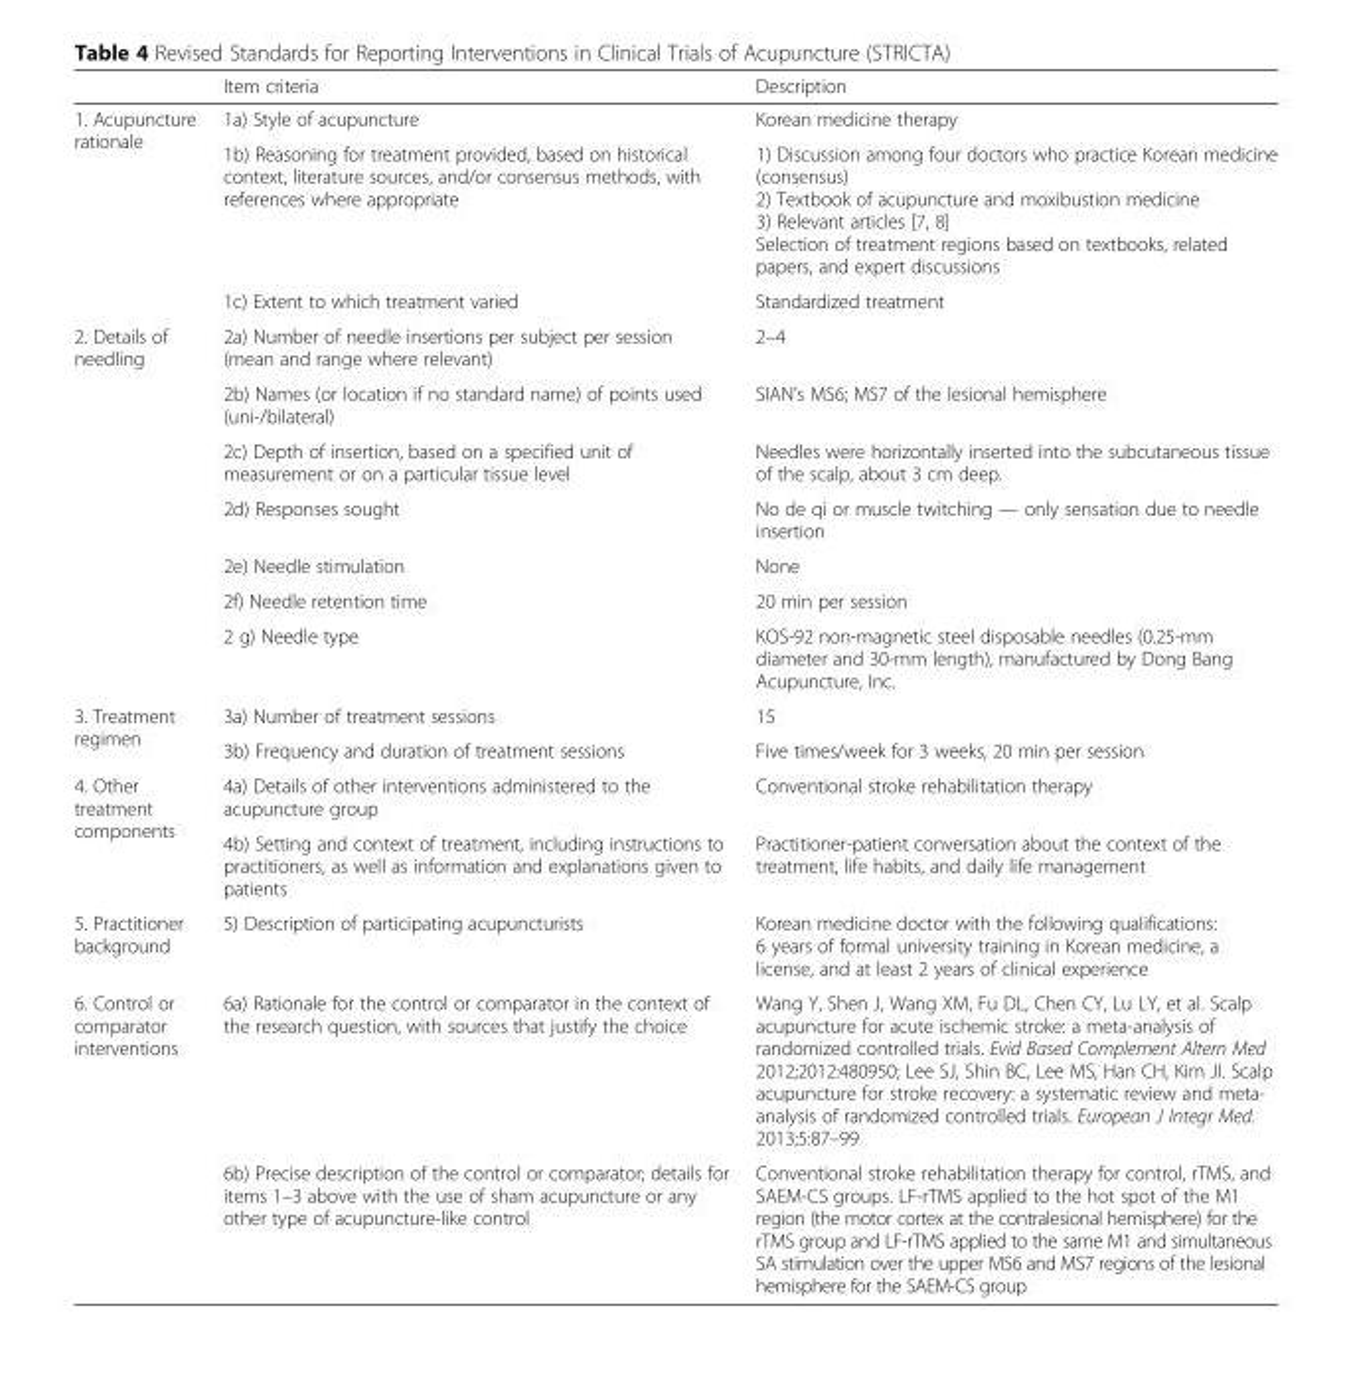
<table><thead><tr><td></td><td>Item criteria</td><td>Description</td></tr></thead><tbody><tr><td rowspan="3">1. Acupuncture rationale</td><td>1a) Style of acupuncture</td><td>Korean medicine therapy</td></tr><tr><td>1b) Reasoning for treatment provided, based on historical context, literature sources, and/or consensus methods, with references where appropriate</td><td>1) Discussion among four doctors who practice Korean medicine (consensus) 2) Textbook of acupuncture and moxibustion medicine 3) Relevant articles [7, 8] Selection of treatment regions based on textbooks, related papers, and expert discussions</td></tr><tr><td>1c) Extent to which treatment varied</td><td>Standardized treatment</td></tr><tr><td rowspan="7">2. Details of needling</td><td>2a) Number of needle insertions per subject per session (mean and range where relevant)</td><td>2–4</td></tr><tr><td>2b) Names (or location if no standard name) of points used (uni-/bilateral)</td><td>SIAN’s MS6; MS7 of the lesional hemisphere</td></tr><tr><td>2c) Depth of insertion, based on a specified unit of measurement or on a particular tissue level</td><td>Needles were horizontally inserted into the subcutaneous tissue of the scalp, about 3 cm deep.</td></tr><tr><td>2d) Responses sought</td><td>No de qi or muscle twitching — only sensation due to needle insertion</td></tr><tr><td>2e) Needle stimulation</td><td>None</td></tr><tr><td>2f) Needle retention time</td><td>20 min per session</td></tr><tr><td>2 g) Needle type</td><td>KOS-92 non-magnetic steel disposable needles (0.25-mm diameter and 30-mm length), manufactured by Dong Bang Acupuncture, Inc.</td></tr><tr><td rowspan="2">3. Treatment regimen</td><td>3a) Number of treatment sessions</td><td>15</td></tr><tr><td>3b) Frequency and duration of treatment sessions</td><td>Five times/week for 3 weeks, 20 min per session</td></tr><tr><td rowspan="2">4. Other treatment components</td><td>4a) Details of other interventions administered to the acupuncture group</td><td>Conventional stroke rehabilitation therapy</td></tr><tr><td>4b) Setting and context of treatment, including instructions to practitioners, as well as information and explanations given to patients</td><td>Practitioner-patient conversation about the context of the treatment, life habits, and daily life management</td></tr><tr><td>5. Practitioner background</td><td>5) Description of participating acupuncturists</td><td>Korean medicine doctor with the following qualifications: 6 years of formal university training in Korean medicine, a license, and at least 2 years of clinical experience</td></tr><tr><td rowspan="2">6. Control or comparator interventions</td><td>6a) Rationale for the control or comparator in the context of the research question, with sources that justify the choice</td><td>Wang Y, Shen J, Wang XM, Fu DL, Chen CY, Lu LY, et al. Scalp acupuncture for acute ischemic stroke: a meta-analysis of randomized controlled trials. Evid Based Complement Altern Med 2012;2012:480950; Lee SJ, Shin BC, Lee MS, Han CH, Kim JI. Scalp acupuncture for stroke recovery: a systematic review and meta- analysis of randomized controlled trials. European J Integr Med. 2013;5:87–99</td></tr><tr><td>6b) Precise description of the control or comparator; details for items 1–3 above with the use of sham acupuncture or any other type of acupuncture-like control</td><td>Conventional stroke rehabilitation therapy for control, rTMS, and SAEM-CS groups. LF-rTMS applied to the hot spot of the M1 region (the motor cortex at the contralesional hemisphere) for the rTMS group and LF-rTMS applied to the same M1 and simultaneous SA stimulation over the upper MS6 and MS7 regions of the lesional hemisphere for the SAEM-CS group</td></tr></tbody></table>